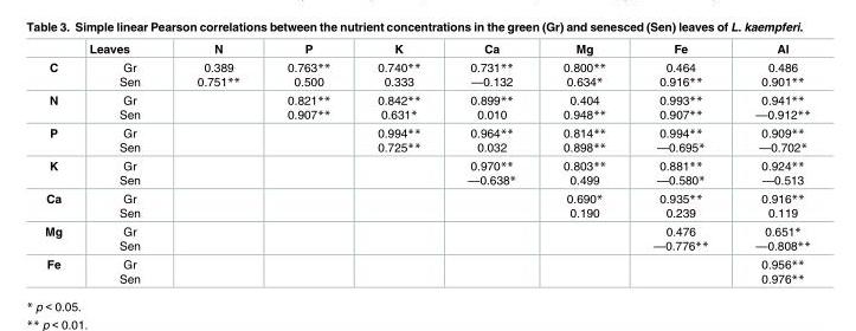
<table><thead><tr><td></td><td>Leaves</td><td>N</td><td>P</td><td>K</td><td>Ca</td><td>Mg</td><td>Fe</td><td>Al</td></tr></thead><tbody><tr><td>C</td><td>Gr Sen</td><td>0.389 0.751**</td><td>0.763** 0.500</td><td>0.740** 0.333</td><td>0.731** —0.132</td><td>0.800** 0.634*</td><td>0.464 0.916**</td><td>0.486 0.901**</td></tr><tr><td>N</td><td>Gr Sen</td><td></td><td>0.821** 0.907**</td><td>0.842** 0.631*</td><td>0.899** 0.010</td><td>0.404 0.948**</td><td>0.993** 0.907**</td><td>0.941** —0.912**</td></tr><tr><td>P</td><td>Gr Sen</td><td></td><td></td><td>0.994** 0.725**</td><td>0.964** 0.032</td><td>0.814** 0.898**</td><td>0.994** —0.695*</td><td>0.909** —0.702*</td></tr><tr><td>K</td><td>Gr Sen</td><td></td><td></td><td></td><td>0.970** —0.638*</td><td>0.803** 0.499</td><td>0.881** —0.580*</td><td>0.924** —0.513</td></tr><tr><td>Ca</td><td>Gr Sen</td><td></td><td></td><td></td><td></td><td>0.690* 0.190</td><td>0.935** 0.239</td><td>0.916** 0.119</td></tr><tr><td>Mg</td><td>Gr Sen</td><td></td><td></td><td></td><td></td><td></td><td>0.476 —0.776**</td><td>0.651* —0.808**</td></tr><tr><td>Fe</td><td>Gr Sen</td><td></td><td></td><td></td><td></td><td></td><td></td><td>0.956** 0.976**</td></tr></tbody></table>